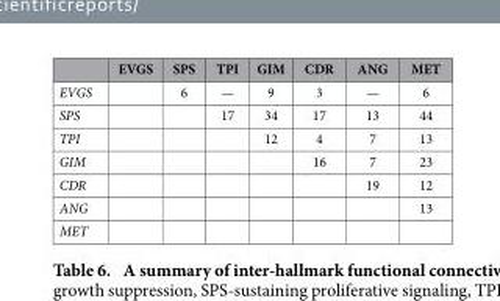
<table><thead><tr><td></td><td>EVGS</td><td>SPS</td><td>TPI</td><td>GIM</td><td>CDR</td><td>ANG</td><td>MET</td></tr></thead><tbody><tr><td>EVGS</td><td></td><td>6</td><td>—</td><td>9</td><td>3</td><td>—</td><td>6</td></tr><tr><td>SPS</td><td></td><td></td><td>17</td><td>34</td><td>17</td><td>13</td><td>44</td></tr><tr><td>TPI</td><td></td><td></td><td></td><td>12</td><td>4</td><td>7</td><td>13</td></tr><tr><td>GIM</td><td></td><td></td><td></td><td></td><td>16</td><td>7</td><td>23</td></tr><tr><td>CDR</td><td></td><td></td><td></td><td></td><td></td><td>19</td><td>12</td></tr><tr><td>ANG</td><td></td><td></td><td></td><td></td><td></td><td></td><td>13</td></tr><tr><td>MET</td><td></td><td></td><td></td><td></td><td></td><td></td><td></td></tr></tbody></table>